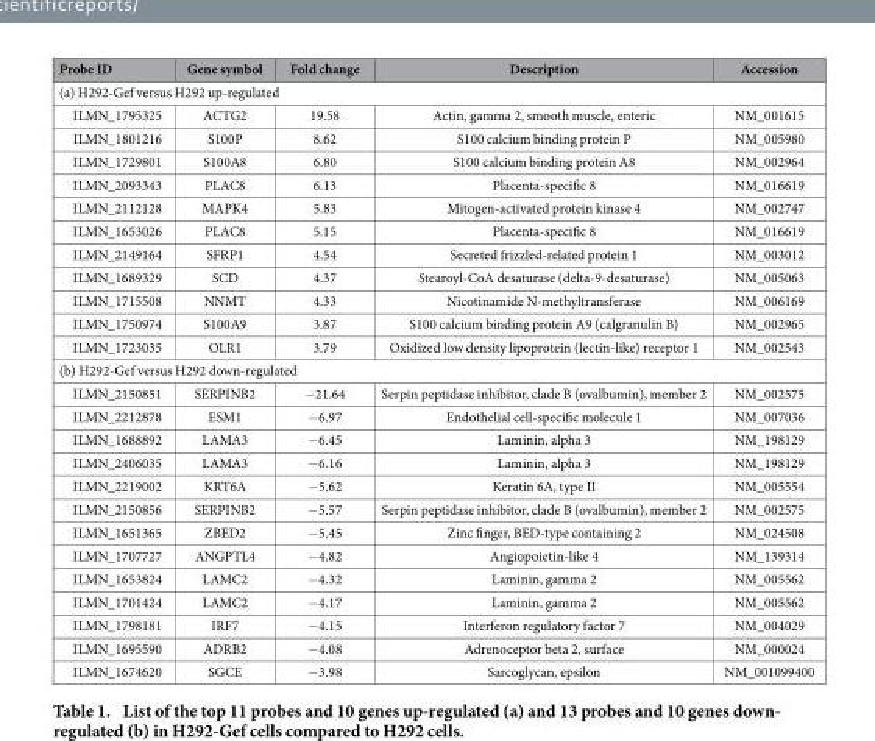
<table><thead><tr><td>Probe ID</td><td>Gene symbol</td><td>Fold change</td><td>Description</td><td>Accession</td></tr></thead><tbody><tr><td colspan="5">(a) H292-Gef versus H292 up-regulated</td></tr><tr><td>ILMN_1795325</td><td>ACTG2</td><td>19.58</td><td>Actin, gamma 2, smooth muscle, enteric</td><td>NM_001615</td></tr><tr><td>ILMN_1801216</td><td>S100P</td><td>8.62</td><td>S100 calcium binding protein P</td><td>NM_005980</td></tr><tr><td>ILMN_1729801</td><td>S100A8</td><td>6.80</td><td>S100 calcium binding protein A8</td><td>NM_002964</td></tr><tr><td>ILMN_2093343</td><td>PLAC8</td><td>6.13</td><td>Placenta-specific 8</td><td>NM_016619</td></tr><tr><td>ILMN_2112128</td><td>MAPK4</td><td>5.83</td><td>Mitogen-activated protein kinase 4</td><td>NM_002747</td></tr><tr><td>ILMN_1653026</td><td>PLAC8</td><td>5.15</td><td>Placenta-specific 8</td><td>NM_016619</td></tr><tr><td>ILMN_2149164</td><td>SFRP1</td><td>4.54</td><td>Secreted frizzled-related protein 1</td><td>NM_003012</td></tr><tr><td>ILMN_1689329</td><td>SCD</td><td>4.37</td><td>Stearoyl-CoA desaturase (delta-9-desaturase)</td><td>NM_005063</td></tr><tr><td>ILMN_1715508</td><td>NNMT</td><td>4.33</td><td>Nicotinamide N-methyltransferase</td><td>NM_006169</td></tr><tr><td>ILMN_1750974</td><td>S100A9</td><td>3.87</td><td>S100 calcium binding protein A9 (calgranulin B)</td><td>NM_002965</td></tr><tr><td>ILMN_1723035</td><td>OLR1</td><td>3.79</td><td>Oxidized low density lipoprotein (lectin-like) receptor 1</td><td>NM_002543</td></tr><tr><td colspan="5">(b) H292-Gef versus H292 down-regulated</td></tr><tr><td>ILMN_2150851</td><td>SERPINB2</td><td>− 21.64</td><td>Serpin peptidase inhibitor, clade B (ovalbumin), member 2</td><td>NM_002575</td></tr><tr><td>ILMN_2212878</td><td>ESM1</td><td>− 6.97</td><td>Endothelial cell-specific molecule 1</td><td>NM_007036</td></tr><tr><td>ILMN_1688892</td><td>LAMA3</td><td>− 6.45</td><td>Laminin, alpha 3</td><td>NM_198129</td></tr><tr><td>ILMN_2406035</td><td>LAMA3</td><td>− 6.16</td><td>Laminin, alpha 3</td><td>NM_198129</td></tr><tr><td>ILMN_2219002</td><td>KRT6A</td><td>− 5.62</td><td>Keratin 6A, type II</td><td>NM_005554</td></tr><tr><td>ILMN_2150856</td><td>SERPINB2</td><td>− 5.57</td><td>Serpin peptidase inhibitor, clade B (ovalbumin), member 2</td><td>NM_002575</td></tr><tr><td>ILMN_1651365</td><td>ZBED2</td><td>− 5.45</td><td>Zinc finger, BED-type containing 2</td><td>NM_024508</td></tr><tr><td>ILMN_1707727</td><td>ANGPTL4</td><td>− 4.82</td><td>Angiopoietin-like 4</td><td>NM_139314</td></tr><tr><td>ILMN_1653824</td><td>LAMC2</td><td>− 4.32</td><td>Laminin, gamma 2</td><td>NM_005562</td></tr><tr><td>ILMN_1701424</td><td>LAMC2</td><td>− 4.17</td><td>Laminin, gamma 2</td><td>NM_005562</td></tr><tr><td>ILMN_1798181</td><td>IRF7</td><td>− 4.15</td><td>Interferon regulatory factor 7</td><td>NM_004029</td></tr><tr><td>ILMN_1695590</td><td>ADRB2</td><td>− 4.08</td><td>Adrenoceptor beta 2, surface</td><td>NM_000024</td></tr><tr><td>ILMN_1674620</td><td>SGCE</td><td>− 3.98</td><td>Sarcoglycan, epsilon</td><td>NM_001099400</td></tr></tbody></table>